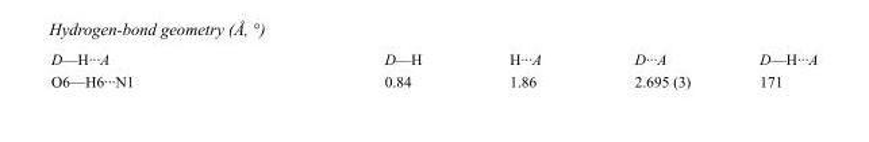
<table><tbody><tr><td>D—H···A</td><td>D—H</td><td>H···A</td><td>D···A</td><td>D—H···A</td></tr><tr><td>O6—H6···N1</td><td>0.84</td><td>1.86</td><td>2.695 (3)</td><td>171</td></tr></tbody></table>